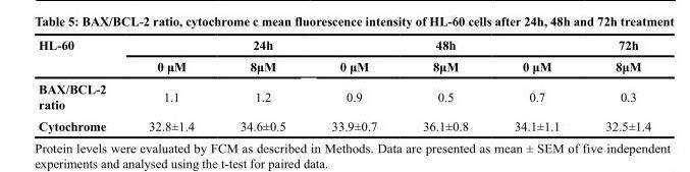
<table><thead><tr><td rowspan="2">HL-60</td><td rowspan="2">0 μM</td><td rowspan="2">24h 8μM</td><td rowspan="2">0 μM</td><td rowspan="2">48h 8μM</td><td rowspan="2">0 μM</td><td rowspan="2">72h 8μM</td></tr><tr></tr></thead><tbody><tr><td>BAX/BCL-2 ratio</td><td>1.1</td><td>1.2</td><td>0.9</td><td>0.5</td><td>0.7</td><td>0.3</td></tr><tr><td>Cytochrome</td><td>32.8±1.4</td><td>34.6±0.5</td><td>33.9±0.7</td><td>36.1±0.8</td><td>34.1±1.1</td><td>32.5±1.4</td></tr></tbody></table>